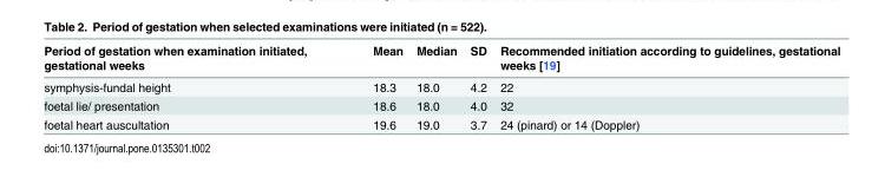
<table><thead><tr><td>Period of gestation when examination initiated, gestational weeks</td><td>Mean</td><td>Median</td><td>SD</td><td>Recommended initiation according to guidelines, gestational weeks [19]</td></tr></thead><tbody><tr><td>symphysis-fundal height</td><td>18.3</td><td>18.0</td><td>4.2</td><td>22</td></tr><tr><td>foetal lie/ presentation</td><td>18.6</td><td>18.0</td><td>4.0</td><td>32</td></tr><tr><td>foetal heart auscultation</td><td>19.6</td><td>19.0</td><td>3.7</td><td>24 (pinard) or 14 (Doppler)</td></tr></tbody></table>